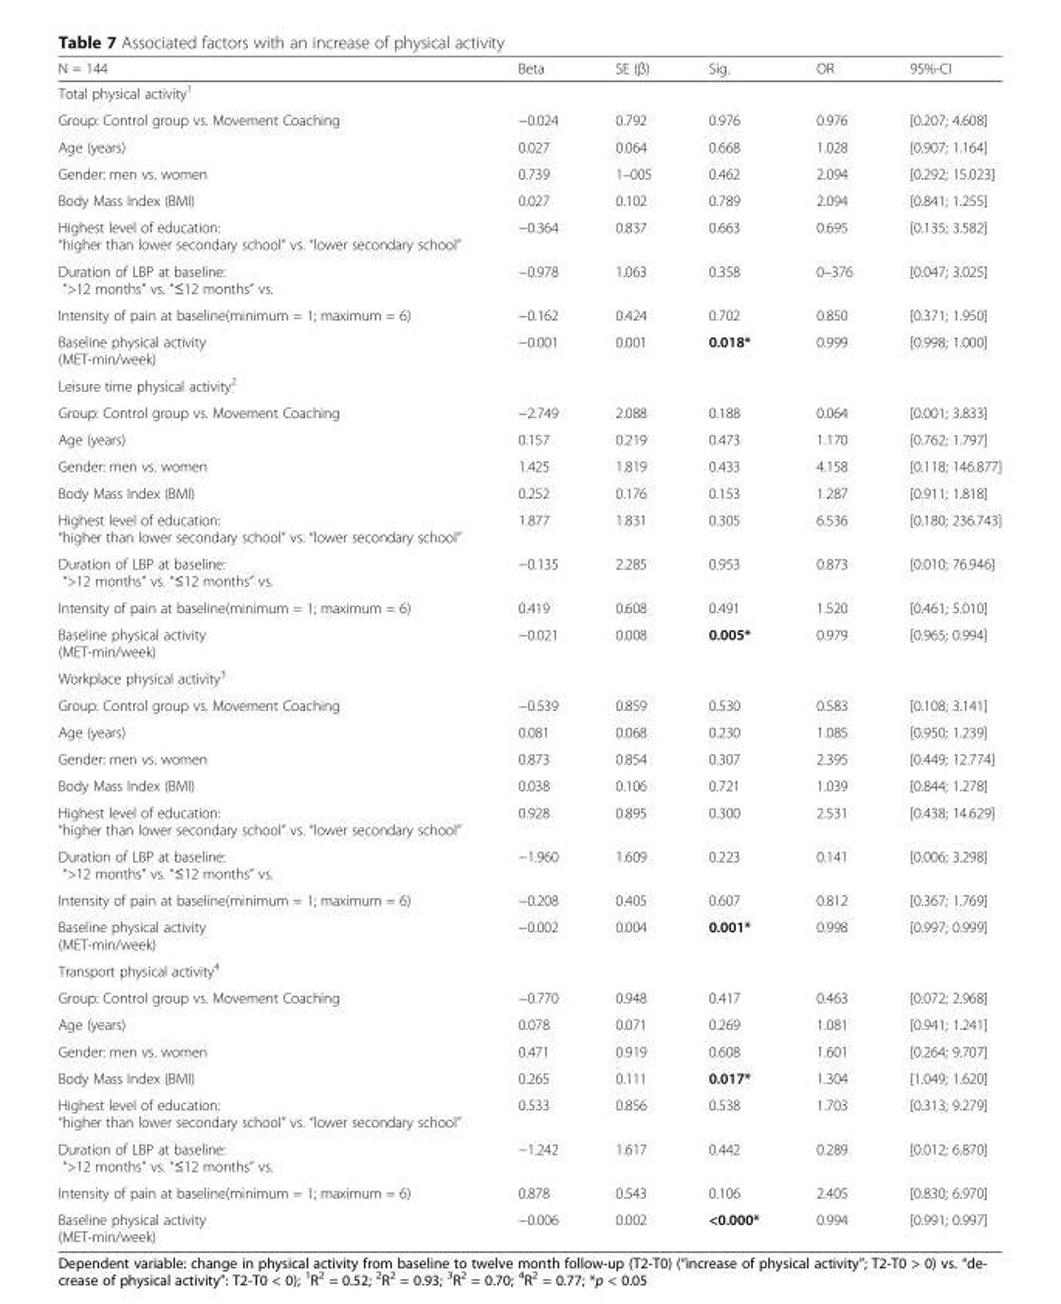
<table><thead><tr><td>N = 144</td><td>Beta</td><td>SE (β)</td><td>Sig.</td><td>OR</td><td>95%-CI</td></tr></thead><tbody><tr><td colspan="6">Total physical activity<sup>1</sup></td></tr><tr><td>Group: Control group vs. Movement Coaching</td><td>−0.024</td><td>0.792</td><td>0.976</td><td>0.976</td><td>[0.207; 4.608]</td></tr><tr><td>Age (years)</td><td>0.027</td><td>0.064</td><td>0.668</td><td>1.028</td><td>[0.907; 1.164]</td></tr><tr><td>Gender: men vs. women</td><td>0.739</td><td>1–005</td><td>0.462</td><td>2.094</td><td>[0.292; 15.023]</td></tr><tr><td>Body Mass Index (BMI)</td><td>0.027</td><td>0.102</td><td>0.789</td><td>2.094</td><td>[0.841; 1.255]</td></tr><tr><td>Highest level of education: “higher than lower secondary school” vs. “lower secondary school”</td><td>−0.364</td><td>0.837</td><td>0.663</td><td>0.695</td><td>[0.135; 3.582]</td></tr><tr><td>Duration of LBP at baseline: “&gt;12 months” vs. “≤12 months” vs.</td><td>−0.978</td><td>1.063</td><td>0.358</td><td>0–376</td><td>[0.047; 3.025]</td></tr><tr><td>Intensity of pain at baseline(minimum = 1; maximum = 6)</td><td>−0.162</td><td>0.424</td><td>0.702</td><td>0.850</td><td>[0.371; 1.950]</td></tr><tr><td>Baseline physical activity (MET-min/week)</td><td>−0.001</td><td>0.001</td><td>0.018*</td><td>0.999</td><td>[0.998; 1.000]</td></tr><tr><td colspan="6">Leisure time physical activity<sup>2</sup></td></tr><tr><td>Group: Control group vs. Movement Coaching</td><td>−2.749</td><td>2.088</td><td>0.188</td><td>0.064</td><td>[0.001; 3.833]</td></tr><tr><td>Age (years)</td><td>0.157</td><td>0.219</td><td>0.473</td><td>1.170</td><td>[0.762; 1.797]</td></tr><tr><td>Gender: men vs. women</td><td>1.425</td><td>1.819</td><td>0.433</td><td>4.158</td><td>[0.118; 146.877]</td></tr><tr><td>Body Mass Index (BMI)</td><td>0.252</td><td>0.176</td><td>0.153</td><td>1.287</td><td>[0.911; 1.818]</td></tr><tr><td>Highest level of education: “higher than lower secondary school” vs. “lower secondary school”</td><td>1.877</td><td>1.831</td><td>0.305</td><td>6.536</td><td>[0.180; 236.743]</td></tr><tr><td>Duration of LBP at baseline: “&gt;12 months” vs. “≤12 months” vs.</td><td>−0.135</td><td>2.285</td><td>0.953</td><td>0.873</td><td>[0.010; 76.946]</td></tr><tr><td>Intensity of pain at baseline(minimum = 1; maximum = 6)</td><td>0.419</td><td>0.608</td><td>0.491</td><td>1.520</td><td>[0.461; 5.010]</td></tr><tr><td>Baseline physical activity (MET-min/week)</td><td>−0.021</td><td>0.008</td><td>0.005*</td><td>0.979</td><td>[0.965; 0.994]</td></tr><tr><td colspan="6">Workplace physical activity<sup>3</sup></td></tr><tr><td>Group: Control group vs. Movement Coaching</td><td>−0.539</td><td>0.859</td><td>0.530</td><td>0.583</td><td>[0.108; 3.141]</td></tr><tr><td>Age (years)</td><td>0.081</td><td>0.068</td><td>0.230</td><td>1.085</td><td>[0.950; 1.239]</td></tr><tr><td>Gender: men vs. women</td><td>0.873</td><td>0.854</td><td>0.307</td><td>2.395</td><td>[0.449; 12.774]</td></tr><tr><td>Body Mass Index (BMI)</td><td>0.038</td><td>0.106</td><td>0.721</td><td>1.039</td><td>[0.844; 1.278]</td></tr><tr><td>Highest level of education: “higher than lower secondary school” vs. “lower secondary school”</td><td>0.928</td><td>0.895</td><td>0.300</td><td>2.531</td><td>[0.438; 14.629]</td></tr><tr><td>Duration of LBP at baseline: “&gt;12 months” vs. “≤12 months” vs.</td><td>−1.960</td><td>1.609</td><td>0.223</td><td>0.141</td><td>[0.006; 3.298]</td></tr><tr><td>Intensity of pain at baseline(minimum = 1; maximum = 6)</td><td>−0.208</td><td>0.405</td><td>0.607</td><td>0.812</td><td>[0.367; 1.769]</td></tr><tr><td>Baseline physical activity (MET-min/week)</td><td>−0.002</td><td>0.004</td><td>0.001*</td><td>0.998</td><td>[0.997; 0.999]</td></tr><tr><td colspan="6">Transport physical activity<sup>4</sup></td></tr><tr><td>Group: Control group vs. Movement Coaching</td><td>−0.770</td><td>0.948</td><td>0.417</td><td>0.463</td><td>[0.072; 2.968]</td></tr><tr><td>Age (years)</td><td>0.078</td><td>0.071</td><td>0.269</td><td>1.081</td><td>[0.941; 1.241]</td></tr><tr><td>Gender: men vs. women</td><td>0.471</td><td>0.919</td><td>0.608</td><td>1.601</td><td>[0.264; 9.707]</td></tr><tr><td>Body Mass Index (BMI)</td><td>0.265</td><td>0.111</td><td>0.017*</td><td>1.304</td><td>[1.049; 1.620]</td></tr><tr><td>Highest level of education: “higher than lower secondary school” vs. “lower secondary school”</td><td>0.533</td><td>0.856</td><td>0.538</td><td>1.703</td><td>[0.313; 9.279]</td></tr><tr><td>Duration of LBP at baseline: “&gt;12 months” vs. “≤12 months” vs.</td><td>−1.242</td><td>1.617</td><td>0.442</td><td>0.289</td><td>[0.012; 6.870]</td></tr><tr><td>Intensity of pain at baseline(minimum = 1; maximum = 6)</td><td>0.878</td><td>0.543</td><td>0.106</td><td>2.405</td><td>[0.830; 6.970]</td></tr><tr><td>Baseline physical activity (MET-min/week)</td><td>−0.006</td><td>0.002</td><td>&lt;0.000*</td><td>0.994</td><td>[0.991; 0.997]</td></tr></tbody></table>